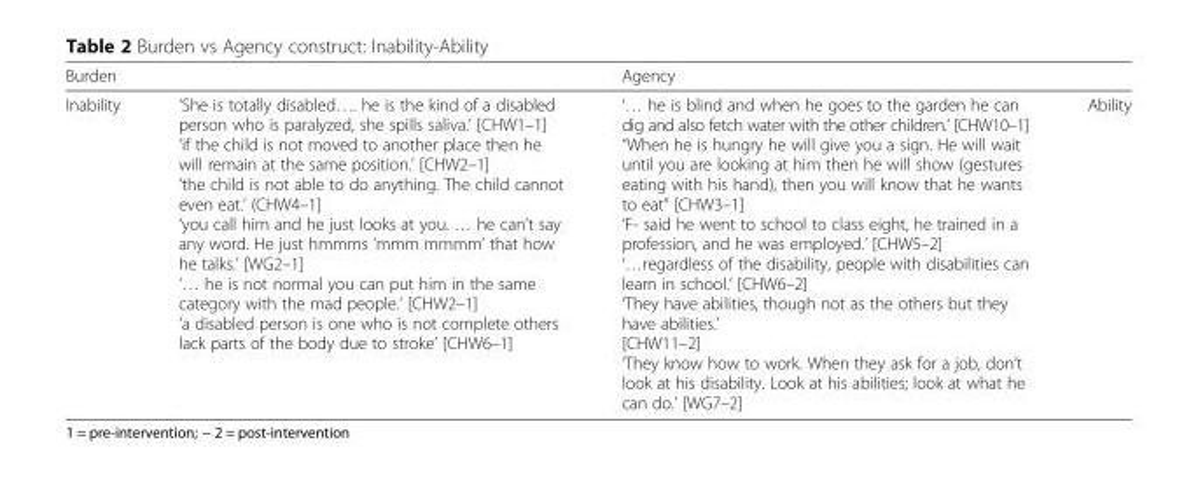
<table><thead><tr><td colspan="2">Burden</td><td colspan="2">Agency</td></tr><tr><td>Inability</td><td>‘She is totally disabled…. he is the kind of a disabled person who is paralyzed, she spills saliva.’ [CHW1–1] ‘if the child is not moved to another place then he will remain at the same position.’ [CHW2–1] ‘the child is not able to do anything. The child cannot even eat.’ (CHW4–1] ‘you call him and he just looks at you. … he can’t say any word. He just hmmms ‘mmm mmmm’ that how he talks.’ [WG2–1] ‘… he is not normal you can put him in the same category with the mad people.’ [CHW2–1] ‘a disabled person is one who is not complete others lack parts of the body due to stroke’ [CHW6–1]</td><td>‘… he is blind and when he goes to the garden he can dig and also fetch water with the other children.’ [CHW10–1] “When he is hungry he will give you a sign. He will wait until you are looking at him then he will show (gestures eating with his hand), then you will know that he wants to eat” [CHW3–1] ‘F- said he went to school to class eight, he trained in a profession, and he was employed.’ [CHW5–2] ‘…regardless of the disability, people with disabilities can learn in school.’ [CHW6–2] ‘They have abilities, though not as the others but they have abilities.’ [CHW11–2] ‘They know how to work. When they ask for a job, don’t look at his disability. Look at his abilities; look at what he can do.’ [WG7–2]</td><td>Ability</td></tr></thead><tbody></tbody></table>